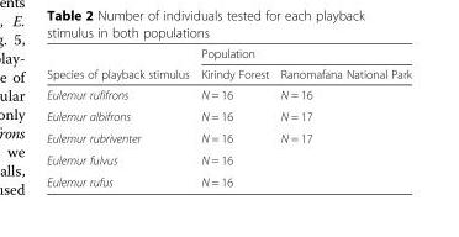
<table><thead><tr><td rowspan="2">Species of playback stimulus</td><td colspan="2">Population</td></tr><tr><td>Kirindy Forest</td><td>Ranomafana National Park</td></tr></thead><tbody><tr><td>Eulemur rufifrons</td><td>N = 16</td><td>N = 16</td></tr><tr><td>Eulemur albifrons</td><td>N = 16</td><td>N = 17</td></tr><tr><td>Eulemur rubriventer</td><td>N = 16</td><td>N = 17</td></tr><tr><td>Eulemur fulvus</td><td>N = 16</td><td></td></tr><tr><td>Eulemur rufus</td><td>N = 16</td><td></td></tr></tbody></table>